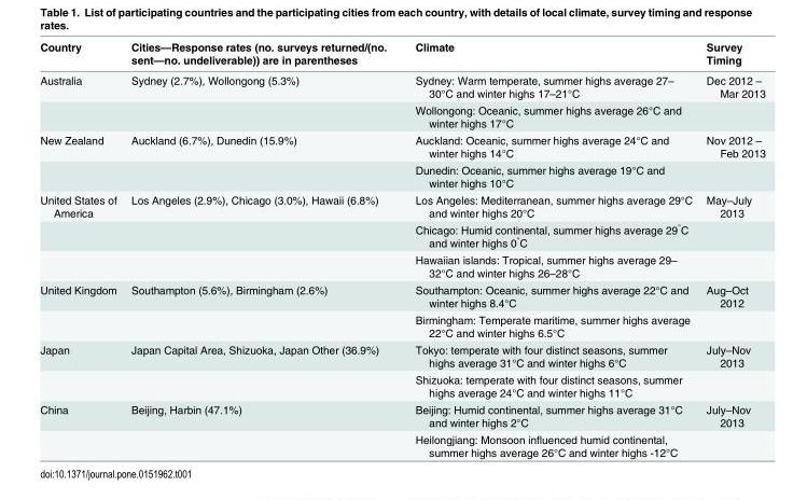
<table><thead><tr><td>Country</td><td>Cities—Response rates (no. surveys returned/(no. sent—no. undeliverable)) are in parentheses</td><td>Climate</td><td>Survey Timing</td></tr></thead><tbody><tr><td rowspan="2">Australia</td><td>Sydney (2.7%), Wollongong (5.3%)</td><td>Sydney: Warm temperate, summer highs average 27– 30°C and winter highs 17–21°C</td><td>Dec 2012 – Mar 2013</td></tr><tr><td></td><td>Wollongong: Oceanic, summer highs average 26°C and winter highs 17°C</td><td></td></tr><tr><td rowspan="2">New Zealand</td><td>Auckland (6.7%), Dunedin (15.9%)</td><td>Auckland: Oceanic, summer highs average 24°C and winter highs 14°C</td><td>Nov 2012 – Feb 2013</td></tr><tr><td></td><td>Dunedin: Oceanic, summer highs average 19°C and winter highs 10°C</td><td></td></tr><tr><td rowspan="3">United States of America</td><td>Los Angeles (2.9%), Chicago (3.0%), Hawaii (6.8%)</td><td>Los Angeles: Mediterranean, summer highs average 29°C and winter highs 20°C</td><td>May–July 2013</td></tr><tr><td></td><td>Chicago: Humid continental, summer highs average 29<sup>°</sup>C and winter highs 0<sup>°</sup>C</td><td></td></tr><tr><td></td><td>Hawaiian islands: Tropical, summer highs average 29– 32°C and winter highs 26–28°C</td><td></td></tr><tr><td rowspan="2">United Kingdom</td><td>Southampton (5.6%), Birmingham (2.6%)</td><td>Southampton: Oceanic, summer highs average 22°C and winter highs 8.4°C</td><td>Aug–Oct 2012</td></tr><tr><td></td><td>Birmingham: Temperate maritime, summer highs average 22°C and winter highs 6.5°C</td><td></td></tr><tr><td rowspan="2">Japan</td><td>Japan Capital Area, Shizuoka, Japan Other (36.9%)</td><td>Tokyo: temperate with four distinct seasons, summer highs average 31°C and winter highs 6°C</td><td>July–Nov 2013</td></tr><tr><td></td><td>Shizuoka: temperate with four distinct seasons, summer highs average 24°C and winter highs 11°C</td><td></td></tr><tr><td rowspan="2">China</td><td>Beijing, Harbin (47.1%)</td><td>Beijing: Humid continental, summer highs average 31°C and winter highs 2°C</td><td>July–Nov 2013</td></tr><tr><td></td><td>Heilongjiang: Monsoon influenced humid continental, summer highs average 26°C and winter highs -12°C</td><td></td></tr></tbody></table>